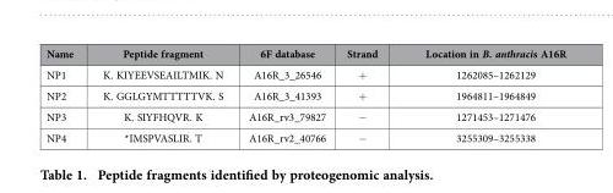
<table><thead><tr><td>Name</td><td>Peptide fragment</td><td>6F database</td><td>Strand</td><td>Location in B. anthracis A16R</td></tr></thead><tbody><tr><td>NP1</td><td>K. KIYEEVSEAILTMIK. N</td><td>A16R_3_26546</td><td>+</td><td>1262085–1262129</td></tr><tr><td>NP2</td><td>K. GGLGYMTTTTTVK. S</td><td>A16R_3_41393</td><td>+</td><td>1964811–1964849</td></tr><tr><td>NP3</td><td>K. SIYFHQVR. K</td><td>A16R_rv3_79827</td><td>−</td><td>1271453–1271476</td></tr><tr><td>NP4</td><td>*IMSPVASLIR. T</td><td>A16R_rv2_40766</td><td>−</td><td>3255309–3255338</td></tr></tbody></table>